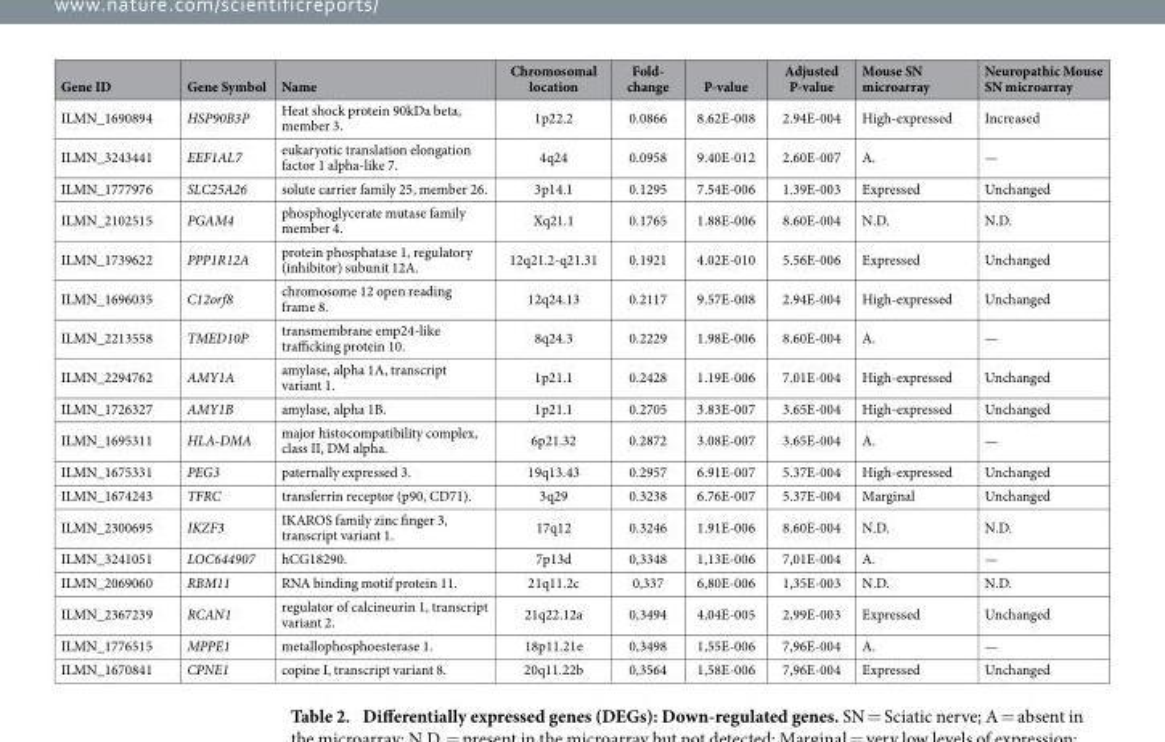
<table><thead><tr><td>Gene ID</td><td>Gene Symbol</td><td>Name</td><td>Chromosomal location</td><td>Fold- change</td><td>P-value</td><td>Adjusted P-value</td><td>Mouse SN microarray</td><td>Neuropathic Mouse SN microarray</td></tr></thead><tbody><tr><td>ILMN_1690894</td><td>HSP90B3P</td><td>Heat shock protein 90kDa beta, member 3.</td><td>1p22.2</td><td>0.0866</td><td>8.62E-008</td><td>2.94E-004</td><td>High-expressed</td><td>Increased</td></tr><tr><td>ILMN_3243441</td><td>EEF1AL7</td><td>eukaryotic translation elongation factor 1 alpha-like 7.</td><td>4q24</td><td>0.0958</td><td>9.40E-012</td><td>2.60E-007</td><td>A.</td><td>—</td></tr><tr><td>ILMN_1777976</td><td>SLC25A26</td><td>solute carrier family 25, member 26.</td><td>3p14.1</td><td>0.1295</td><td>7.54E-006</td><td>1.39E-003</td><td>Expressed</td><td>Unchanged</td></tr><tr><td>ILMN_2102515</td><td>PGAM4</td><td>phosphoglycerate mutase family member 4.</td><td>Xq21.1</td><td>0.1765</td><td>1.88E-006</td><td>8.60E-004</td><td>N.D.</td><td>N.D.</td></tr><tr><td>ILMN_1739622</td><td>PPP1R12A</td><td>protein phosphatase 1, regulatory (inhibitor) subunit 12A.</td><td>12q21.2-q21.31</td><td>0.1921</td><td>4.02E-010</td><td>5.56E-006</td><td>Expressed</td><td>Unchanged</td></tr><tr><td>ILMN_1696035</td><td>C12orf8</td><td>chromosome 12 open reading frame 8.</td><td>12q24.13</td><td>0.2117</td><td>9.57E-008</td><td>2.94E-004</td><td>High-expressed</td><td>Unchanged</td></tr><tr><td>ILMN_2213558</td><td>TMED10P</td><td>transmembrane emp24-like trafficking protein 10.</td><td>8q24.3</td><td>0.2229</td><td>1.98E-006</td><td>8.60E-004</td><td>A.</td><td>—</td></tr><tr><td>ILMN_2294762</td><td>AMY1A</td><td>amylase, alpha 1A, transcript variant 1.</td><td>1p21.1</td><td>0.2428</td><td>1.19E-006</td><td>7.01E-004</td><td>High-expressed</td><td>Unchanged</td></tr><tr><td>ILMN_1726327</td><td>AMY1B</td><td>amylase, alpha 1B.</td><td>1p21.1</td><td>0.2705</td><td>3.83E-007</td><td>3.65E-004</td><td>High-expressed</td><td>Unchanged</td></tr><tr><td>ILMN_1695311</td><td>HLA-DMA</td><td>major histocompatibility complex, class II, DM alpha.</td><td>6p21.32</td><td>0.2872</td><td>3.08E-007</td><td>3.65E-004</td><td>A.</td><td>—</td></tr><tr><td>ILMN_1675331</td><td>PEG3</td><td>paternally expressed 3.</td><td>19q13.43</td><td>0.2957</td><td>6.91E-007</td><td>5.37E-004</td><td>High-expressed</td><td>Unchanged</td></tr><tr><td>ILMN_1674243</td><td>TFRC</td><td>transferrin receptor (p90, CD71).</td><td>3q29</td><td>0.3238</td><td>6.76E-007</td><td>5.37E-004</td><td>Marginal</td><td>Unchanged</td></tr><tr><td>ILMN_2300695</td><td>IKZF3</td><td>IKAROS family zinc finger 3, transcript variant 1.</td><td>17q12</td><td>0.3246</td><td>1.91E-006</td><td>8.60E-004</td><td>N.D.</td><td>N.D.</td></tr><tr><td>ILMN_3241051</td><td>LOC644907</td><td>hCG18290.</td><td>7p13d</td><td>0,3348</td><td>1,13E-006</td><td>7,01E-004</td><td>A.</td><td>—</td></tr><tr><td>ILMN_2069060</td><td>RBM11</td><td>RNA binding motif protein 11.</td><td>21q11.2c</td><td>0,337</td><td>6,80E-006</td><td>1,35E-003</td><td>N.D.</td><td>N.D.</td></tr><tr><td>ILMN_2367239</td><td>RCAN1</td><td>regulator of calcineurin 1, transcript variant 2.</td><td>21q22.12a</td><td>0,3494</td><td>4,04E-005</td><td>2,99E-003</td><td>Expressed</td><td>Unchanged</td></tr><tr><td>ILMN_1776515</td><td>MPPE1</td><td>metallophosphoesterase 1.</td><td>18p11.21e</td><td>0,3498</td><td>1,55E-006</td><td>7,96E-004</td><td>A.</td><td>—</td></tr><tr><td>ILMN_1670841</td><td>CPNE1</td><td>copine I, transcript variant 8.</td><td>20q11.22b</td><td>0,3564</td><td>1,58E-006</td><td>7,96E-004</td><td>Expressed</td><td>Unchanged</td></tr></tbody></table>